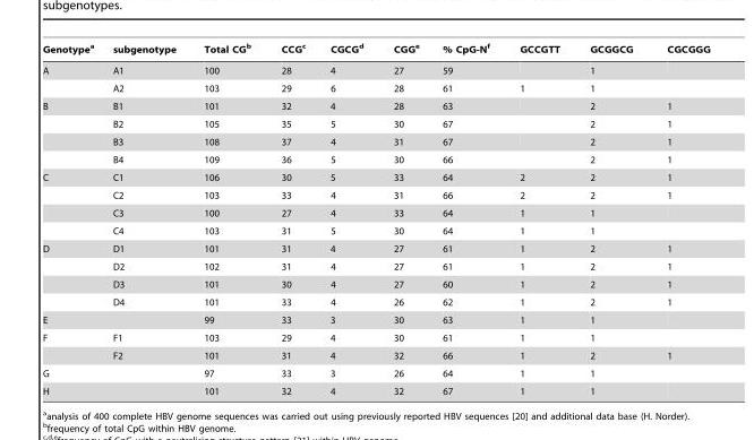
<table><thead><tr><td>Genotype<sup>a</sup></td><td>subgenotype</td><td>Total CG<sup>b</sup></td><td>CCG<sup>c</sup></td><td>CGCG<sup>d</sup></td><td>CGG<sup>e</sup></td><td>% CpG-N<sup>f</sup></td><td>GCCGTT</td><td>GCGGCG</td><td>CGCGGG</td></tr></thead><tbody><tr><td rowspan="2">A</td><td>A1</td><td>100</td><td>28</td><td>4</td><td>27</td><td>59</td><td></td><td>1</td><td></td></tr><tr><td>A2</td><td>103</td><td>29</td><td>6</td><td>28</td><td>61</td><td>1</td><td>1</td><td></td></tr><tr><td rowspan="4">B</td><td>B1</td><td>101</td><td>32</td><td>4</td><td>28</td><td>63</td><td></td><td>2</td><td>1</td></tr><tr><td>B2</td><td>105</td><td>35</td><td>5</td><td>30</td><td>67</td><td></td><td>2</td><td>1</td></tr><tr><td>B3</td><td>108</td><td>37</td><td>4</td><td>31</td><td>67</td><td></td><td>2</td><td>1</td></tr><tr><td>B4</td><td>109</td><td>36</td><td>5</td><td>30</td><td>66</td><td></td><td>2</td><td>1</td></tr><tr><td rowspan="4">C</td><td>C1</td><td>106</td><td>30</td><td>5</td><td>33</td><td>64</td><td>2</td><td>2</td><td>1</td></tr><tr><td>C2</td><td>103</td><td>33</td><td>4</td><td>31</td><td>66</td><td>2</td><td>2</td><td>1</td></tr><tr><td>C3</td><td>100</td><td>27</td><td>4</td><td>33</td><td>64</td><td>1</td><td>1</td><td></td></tr><tr><td>C4</td><td>103</td><td>31</td><td>5</td><td>30</td><td>64</td><td>1</td><td>1</td><td></td></tr><tr><td rowspan="4">D</td><td>D1</td><td>101</td><td>31</td><td>4</td><td>27</td><td>61</td><td>1</td><td>2</td><td>1</td></tr><tr><td>D2</td><td>102</td><td>31</td><td>4</td><td>27</td><td>61</td><td>1</td><td>2</td><td>1</td></tr><tr><td>D3</td><td>101</td><td>30</td><td>4</td><td>27</td><td>60</td><td>1</td><td>2</td><td>1</td></tr><tr><td>D4</td><td>101</td><td>33</td><td>4</td><td>26</td><td>62</td><td>1</td><td>2</td><td>1</td></tr><tr><td>E</td><td></td><td>99</td><td>33</td><td>3</td><td>30</td><td>63</td><td>1</td><td>1</td><td></td></tr><tr><td rowspan="2">F</td><td>F1</td><td>103</td><td>29</td><td>4</td><td>30</td><td>61</td><td>1</td><td>1</td><td></td></tr><tr><td>F2</td><td>101</td><td>31</td><td>4</td><td>32</td><td>66</td><td>1</td><td>2</td><td>1</td></tr><tr><td>G</td><td></td><td>97</td><td>33</td><td>3</td><td>26</td><td>64</td><td>1</td><td>1</td><td></td></tr><tr><td>H</td><td></td><td>101</td><td>32</td><td>4</td><td>32</td><td>67</td><td>1</td><td>1</td><td></td></tr></tbody></table>